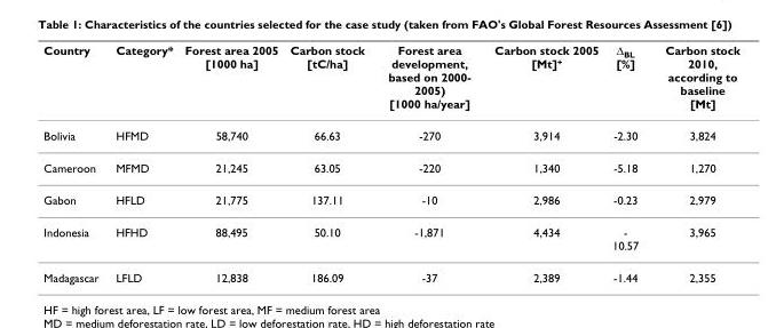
<table><thead><tr><td>Country</td><td>Category*</td><td>Forest area 2005 [1000 ha]</td><td>Carbon stock [tC/ha]</td><td>Forest area development, based on 2000- 2005) [1000 ha/year]</td><td>Carbon stock 2005 [Mt]<sup>+</sup></td><td>Δ<sub>BL</sub> [%]</td><td>Carbon stock 2010, according to baseline [Mt]</td></tr></thead><tbody><tr><td>Bolivia</td><td>HFMD</td><td>58,740</td><td>66.63</td><td>-270</td><td>3,914</td><td>-2.30</td><td>3,824</td></tr><tr><td>Cameroon</td><td>MFMD</td><td>21,245</td><td>63.05</td><td>-220</td><td>1,340</td><td>-5.18</td><td>1,270</td></tr><tr><td>Gabon</td><td>HFLD</td><td>21,775</td><td>137.11</td><td>-10</td><td>2,986</td><td>-0.23</td><td>2,979</td></tr><tr><td>Indonesia</td><td>HFHD</td><td>88,495</td><td>50.10</td><td>-1,871</td><td>4,434</td><td>- 10.57</td><td>3,965</td></tr><tr><td>Madagascar</td><td>LFLD</td><td>12,838</td><td>186.09</td><td>-37</td><td>2,389</td><td>-1.44</td><td>2,355</td></tr></tbody></table>